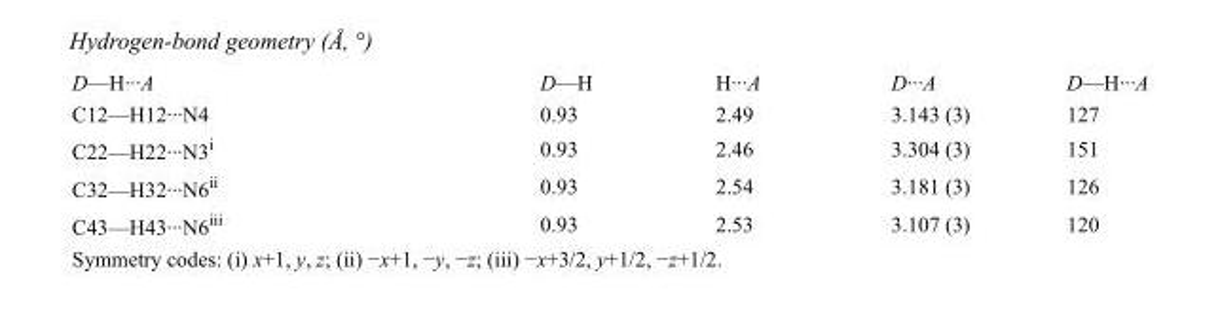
<table><tbody><tr><td>D—H···A</td><td>D—H</td><td>H···A</td><td>D···A</td><td>D—H···A</td></tr><tr><td>C12—H12···N4</td><td>0.93</td><td>2.49</td><td>3.143 (3)</td><td>127</td></tr><tr><td>C22—H22···N3<sup>i</sup></td><td>0.93</td><td>2.46</td><td>3.304 (3)</td><td>151</td></tr><tr><td>C32—H32···N6<sup>ii</sup></td><td>0.93</td><td>2.54</td><td>3.181 (3)</td><td>126</td></tr><tr><td>C43—H43···N6<sup>iii</sup></td><td>0.93</td><td>2.53</td><td>3.107 (3)</td><td>120</td></tr></tbody></table>